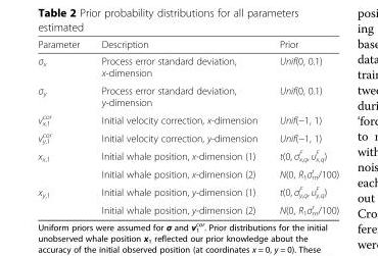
<table><thead><tr><td>Parameter</td><td>Description</td><td>Prior</td></tr></thead><tbody><tr><td>σ<sub>x</sub></td><td>Process error standard deviation, x-dimension</td><td>Unif(0, 0.1)</td></tr><tr><td>σ<sub>y</sub></td><td>Process error standard deviation, y-dimension</td><td>Unif(0, 0.1)</td></tr><tr><td>v<sub>x,1</sub> <sup>cor</sup></td><td>Initial velocity correction, x-dimension</td><td>Unif(−1, 1)</td></tr><tr><td>v<sub>y,1</sub> <sup>cor</sup></td><td>Initial velocity correction, y-dimension</td><td>Unif(−1, 1)</td></tr><tr><td rowspan="2">x<sub>x,1</sub></td><td>Initial whale position, x-dimension (1)</td><td>t(0, σ<sub>x,q</sub> <sup>F</sup> , υ<sub>x,q</sub> <sup>F</sup> )</td></tr><tr><td>Initial whale position, x-dimension (2)</td><td>N(0, R<sub>1</sub>σ<sub>m</sub> <sup>r</sup> /100)</td></tr><tr><td rowspan="2">x<sub>y,1</sub></td><td>Initial whale position, y-dimension (1)</td><td>t(0, σ<sub>y,q</sub> <sup>F</sup> , υ<sub>y,q</sub> <sup>F</sup> )</td></tr><tr><td>Initial whale position, y-dimension (2)</td><td>N(0, R<sub>1</sub>σ<sub>m</sub> <sup>r</sup> /100)</td></tr></tbody></table>